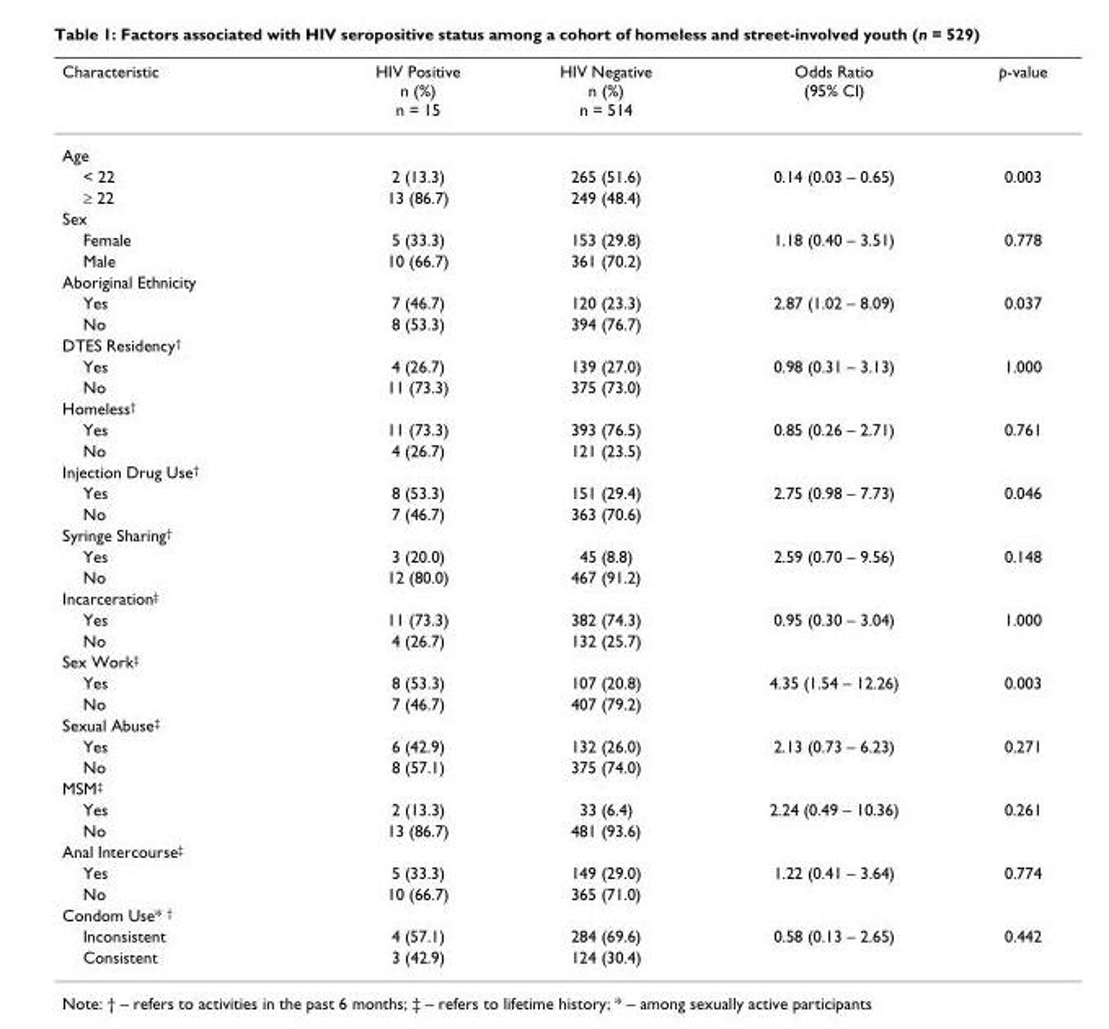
<table><thead><tr><td>Characteristic</td><td>HIV Positive n (%) n = 15</td><td>HIV Negative n (%) n = 514</td><td>Odds Ratio (95% CI)</td><td>p-value</td></tr></thead><tbody><tr><td colspan="5">Age</td></tr><tr><td>&lt; 22</td><td>2 (13.3)</td><td>265 (51.6)</td><td>0.14 (0.03 – 0.65)</td><td>0.003</td></tr><tr><td>≥ 22</td><td>13 (86.7)</td><td>249 (48.4)</td><td></td><td></td></tr><tr><td colspan="5">Sex</td></tr><tr><td>Female</td><td>5 (33.3)</td><td>153 (29.8)</td><td>1.18 (0.40 – 3.51)</td><td>0.778</td></tr><tr><td>Male</td><td>10 (66.7)</td><td>361 (70.2)</td><td></td><td></td></tr><tr><td colspan="5">Aboriginal Ethnicity</td></tr><tr><td>Yes</td><td>7 (46.7)</td><td>120 (23.3)</td><td>2.87 (1.02 – 8.09)</td><td>0.037</td></tr><tr><td>No</td><td>8 (53.3)</td><td>394 (76.7)</td><td></td><td></td></tr><tr><td colspan="5">DTES Residency<sup>†</sup></td></tr><tr><td>Yes</td><td>4 (26.7)</td><td>139 (27.0)</td><td>0.98 (0.31 – 3.13)</td><td>1.000</td></tr><tr><td>No</td><td>11 (73.3)</td><td>375 (73.0)</td><td></td><td></td></tr><tr><td colspan="5">Homeless<sup>†</sup></td></tr><tr><td>Yes</td><td>11 (73.3)</td><td>393 (76.5)</td><td>0.85 (0.26 – 2.71)</td><td>0.761</td></tr><tr><td>No</td><td>4 (26.7)</td><td>121 (23.5)</td><td></td><td></td></tr><tr><td colspan="5">Injection Drug Use<sup>†</sup></td></tr><tr><td>Yes</td><td>8 (53.3)</td><td>151 (29.4)</td><td>2.75 (0.98 – 7.73)</td><td>0.046</td></tr><tr><td>No</td><td>7 (46.7)</td><td>363 (70.6)</td><td></td><td></td></tr><tr><td colspan="5">Syringe Sharing<sup>†</sup></td></tr><tr><td>Yes</td><td>3 (20.0)</td><td>45 (8.8)</td><td>2.59 (0.70 – 9.56)</td><td>0.148</td></tr><tr><td>No</td><td>12 (80.0)</td><td>467 (91.2)</td><td></td><td></td></tr><tr><td colspan="5">Incarceration<sup>‡</sup></td></tr><tr><td>Yes</td><td>11 (73.3)</td><td>382 (74.3)</td><td>0.95 (0.30 – 3.04)</td><td>1.000</td></tr><tr><td>No</td><td>4 (26.7)</td><td>132 (25.7)</td><td></td><td></td></tr><tr><td colspan="5">Sex Work<sup>‡</sup></td></tr><tr><td>Yes</td><td>8 (53.3)</td><td>107 (20.8)</td><td>4.35 (1.54 – 12.26)</td><td>0.003</td></tr><tr><td>No</td><td>7 (46.7)</td><td>407 (79.2)</td><td></td><td></td></tr><tr><td colspan="5">Sexual Abuse<sup>‡</sup></td></tr><tr><td>Yes</td><td>6 (42.9)</td><td>132 (26.0)</td><td>2.13 (0.73 – 6.23)</td><td>0.271</td></tr><tr><td>No</td><td>8 (57.1)</td><td>375 (74.0)</td><td></td><td></td></tr><tr><td colspan="5">MSM<sup>‡</sup></td></tr><tr><td>Yes</td><td>2 (13.3)</td><td>33 (6.4)</td><td>2.24 (0.49 – 10.36)</td><td>0.261</td></tr><tr><td>No</td><td>13 (86.7)</td><td>481 (93.6)</td><td></td><td></td></tr><tr><td colspan="5">Anal Intercourse<sup>‡</sup></td></tr><tr><td>Yes</td><td>5 (33.3)</td><td>149 (29.0)</td><td>1.22 (0.41 – 3.64)</td><td>0.774</td></tr><tr><td>No</td><td>10 (66.7)</td><td>365 (71.0)</td><td></td><td></td></tr><tr><td colspan="5">Condom Use* <sup>†</sup></td></tr><tr><td>Inconsistent</td><td>4 (57.1)</td><td>284 (69.6)</td><td>0.58 (0.13 – 2.65)</td><td>0.442</td></tr><tr><td>Consistent</td><td>3 (42.9)</td><td>124 (30.4)</td><td></td><td></td></tr></tbody></table>